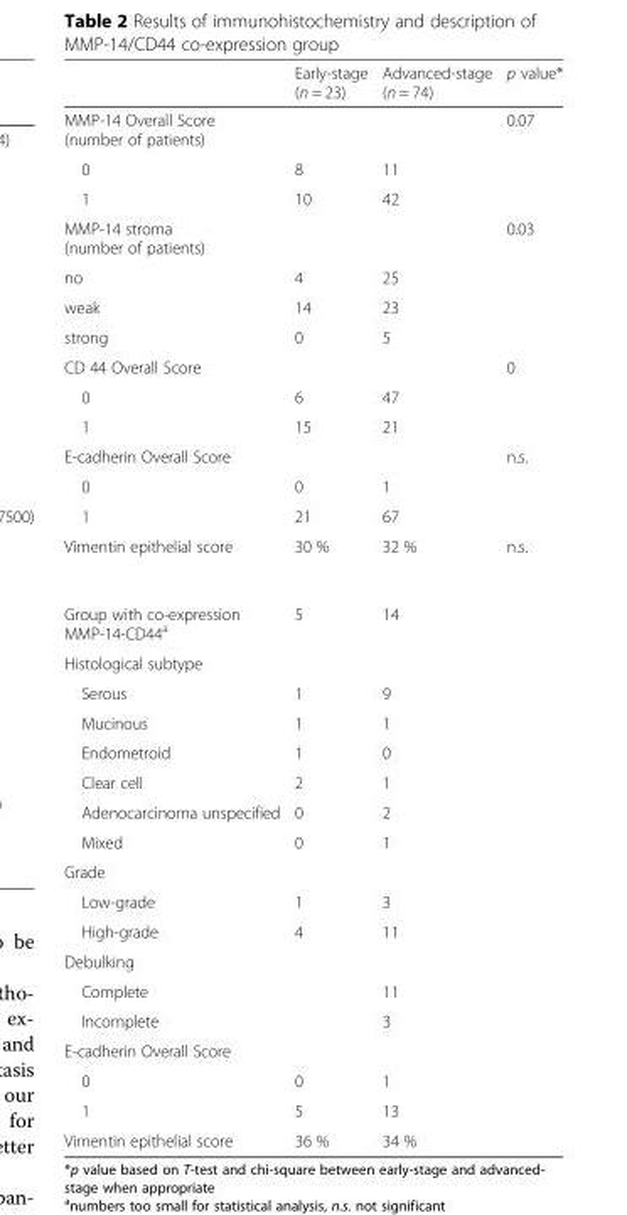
<table><thead><tr><td></td><td>Early-stage (n = 23)</td><td>Advanced-stage (n = 74)</td><td>p value*</td></tr></thead><tbody><tr><td>MMP-14 Overall Score (number of patients)</td><td></td><td></td><td>0.07</td></tr><tr><td>0</td><td>8</td><td>11</td><td></td></tr><tr><td>1</td><td>10</td><td>42</td><td></td></tr><tr><td>MMP-14 stroma (number of patients)</td><td></td><td></td><td>0.03</td></tr><tr><td>no</td><td>4</td><td>25</td><td></td></tr><tr><td>weak</td><td>14</td><td>23</td><td></td></tr><tr><td>strong</td><td>0</td><td>5</td><td></td></tr><tr><td>CD 44 Overall Score</td><td></td><td></td><td>0</td></tr><tr><td>0</td><td>6</td><td>47</td><td></td></tr><tr><td>1</td><td>15</td><td>21</td><td></td></tr><tr><td>E-cadherin Overall Score</td><td></td><td></td><td>n.s.</td></tr><tr><td>0</td><td>0</td><td>1</td><td></td></tr><tr><td>1</td><td>21</td><td>67</td><td></td></tr><tr><td>Vimentin epithelial score</td><td>30 %</td><td>32 %</td><td>n.s.</td></tr><tr><td>Group with co-expression MMP-14-CD44<sup>a</sup></td><td>5</td><td>14</td><td></td></tr><tr><td colspan="4">Histological subtype</td></tr><tr><td>Serous</td><td>1</td><td>9</td><td></td></tr><tr><td>Mucinous</td><td>1</td><td>1</td><td></td></tr><tr><td>Endometroid</td><td>1</td><td>0</td><td></td></tr><tr><td>Clear cell</td><td>2</td><td>1</td><td></td></tr><tr><td>Adenocarcinoma unspecified</td><td>0</td><td>2</td><td></td></tr><tr><td>Mixed</td><td>0</td><td>1</td><td></td></tr><tr><td colspan="4">Grade</td></tr><tr><td>Low-grade</td><td>1</td><td>3</td><td></td></tr><tr><td>High-grade</td><td>4</td><td>11</td><td></td></tr><tr><td colspan="4">Debulking</td></tr><tr><td>Complete</td><td></td><td>11</td><td></td></tr><tr><td>Incomplete</td><td></td><td>3</td><td></td></tr><tr><td colspan="4">E-cadherin Overall Score</td></tr><tr><td>0</td><td>0</td><td>1</td><td></td></tr><tr><td>1</td><td>5</td><td>13</td><td></td></tr><tr><td>Vimentin epithelial score</td><td>36 %</td><td>34 %</td><td></td></tr></tbody></table>